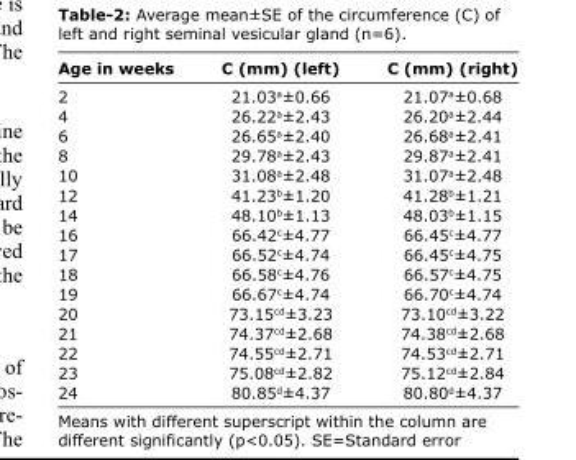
<table><thead><tr><td>Age in weeks</td><td>C (mm) (left)</td><td>C (mm) (right)</td></tr></thead><tbody><tr><td>2</td><td>21.03<sup>a</sup>±0.66</td><td>21.07<sup>a</sup>±0.68</td></tr><tr><td>4</td><td>26.22<sup>a</sup>±2.43</td><td>26.20<sup>a</sup>±2.44</td></tr><tr><td>6</td><td>26.65<sup>a</sup>±2.40</td><td>26.68<sup>a</sup>±2.41</td></tr><tr><td>8</td><td>29.78<sup>a</sup>±2.43</td><td>29.87<sup>a</sup>±2.41</td></tr><tr><td>10</td><td>31.08<sup>a</sup>±2.48</td><td>31.07<sup>a</sup>±2.48</td></tr><tr><td>12</td><td>41.23<sup>b</sup>±1.20</td><td>41.28<sup>b</sup>±1.21</td></tr><tr><td>14</td><td>48.10<sup>b</sup>±1.13</td><td>48.03<sup>b</sup>±1.15</td></tr><tr><td>16</td><td>66.42<sup>c</sup>±4.77</td><td>66.45<sup>c</sup>±4.77</td></tr><tr><td>17</td><td>66.52<sup>c</sup>±4.74</td><td>66.45<sup>c</sup>±4.75</td></tr><tr><td>18</td><td>66.58<sup>c</sup>±4.76</td><td>66.57<sup>c</sup>±4.75</td></tr><tr><td>19</td><td>66.67<sup>c</sup>±4.74</td><td>66.70<sup>c</sup>±4.74</td></tr><tr><td>20</td><td>73.15<sup>cd</sup>±3.23</td><td>73.10<sup>cd</sup>±3.22</td></tr><tr><td>21</td><td>74.37<sup>cd</sup>±2.68</td><td>74.38<sup>cd</sup>±2.68</td></tr><tr><td>22</td><td>74.55<sup>cd</sup>±2.71</td><td>74.53<sup>cd</sup>±2.71</td></tr><tr><td>23</td><td>75.08<sup>cd</sup>±2.82</td><td>75.12<sup>cd</sup>±2.84</td></tr><tr><td>24</td><td>80.85<sup>d</sup>±4.37</td><td>80.80<sup>d</sup>±4.37</td></tr></tbody></table>